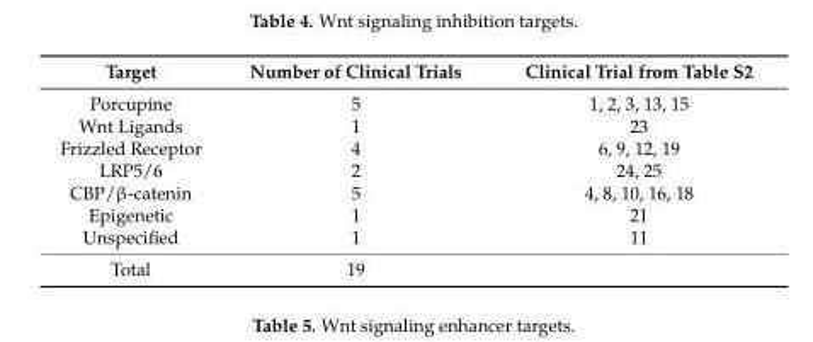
<table><thead><tr><td>Target</td><td>Number of Clinical Trials</td><td>Clinical Trial from Table S2</td></tr></thead><tbody><tr><td>Porcupine</td><td>5</td><td>1, 2, 3, 13, 15</td></tr><tr><td>Wnt Ligands</td><td>1</td><td>23</td></tr><tr><td>Frizzled Receptor</td><td>4</td><td>6, 9, 12, 19</td></tr><tr><td>LRP5/6</td><td>2</td><td>24, 25</td></tr><tr><td>CBP/β-catenin</td><td>5</td><td>4, 8, 10, 16, 18</td></tr><tr><td>Epigenetic</td><td>1</td><td>21</td></tr><tr><td>Unspecified</td><td>1</td><td>11</td></tr><tr><td>Total</td><td>19</td><td></td></tr></tbody></table>